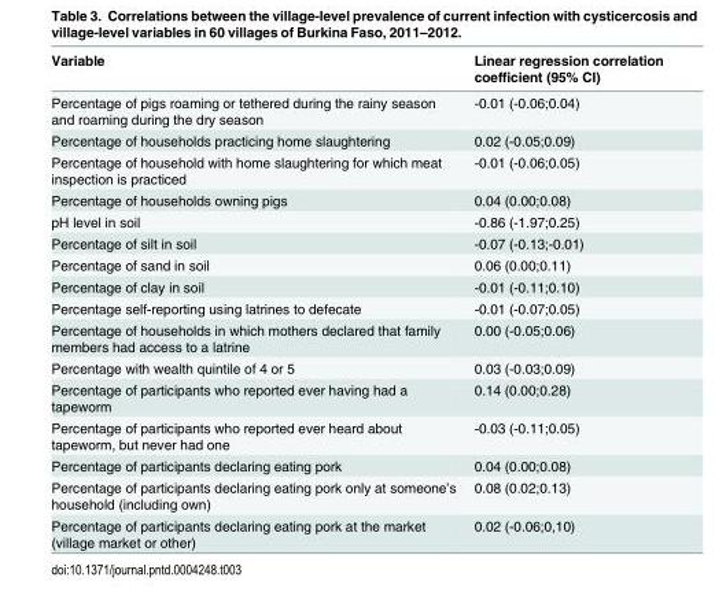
<table><thead><tr><td>Variable</td><td>Linear regression correlation coefficient (95% CI)</td></tr></thead><tbody><tr><td>Percentage of pigs roaming or tethered during the rainy season and roaming during the dry season</td><td>-0.01 (-0.06;0.04)</td></tr><tr><td>Percentage of households practicing home slaughtering</td><td>0.02 (-0.05;0.09)</td></tr><tr><td>Percentage of household with home slaughtering for which meat inspection is practiced</td><td>-0.01 (-0.06;0.05)</td></tr><tr><td>Percentage of households owning pigs</td><td>0.04 (0.00;0.08)</td></tr><tr><td>pH level in soil</td><td>-0.86 (-1.97;0.25)</td></tr><tr><td>Percentage of silt in soil</td><td>-0.07 (-0.13;-0.01)</td></tr><tr><td>Percentage of sand in soil</td><td>0.06 (0.00;0.11)</td></tr><tr><td>Percentage of clay in soil</td><td>-0.01 (-0.11;0.10)</td></tr><tr><td>Percentage self-reporting using latrines to defecate</td><td>-0.01 (-0.07;0.05)</td></tr><tr><td>Percentage of households in which mothers declared that family members had access to a latrine</td><td>0.00 (-0.05;0.06)</td></tr><tr><td>Percentage with wealth quintile of 4 or 5</td><td>0.03 (-0.03;0.09)</td></tr><tr><td>Percentage of participants who reported ever having had a tapeworm</td><td>0.14 (0.00;0.28)</td></tr><tr><td>Percentage of participants who reported ever heard about tapeworm, but never had one</td><td>-0.03 (-0.11;0.05)</td></tr><tr><td>Percentage of participants declaring eating pork</td><td>0.04 (0.00;0.08)</td></tr><tr><td>Percentage of participants declaring eating pork only at someone’s household (including own)</td><td>0.08 (0.02;0.13)</td></tr><tr><td>Percentage of participants declaring eating pork at the market (village market or other)</td><td>0.02 (-0.06;0,10)</td></tr></tbody></table>